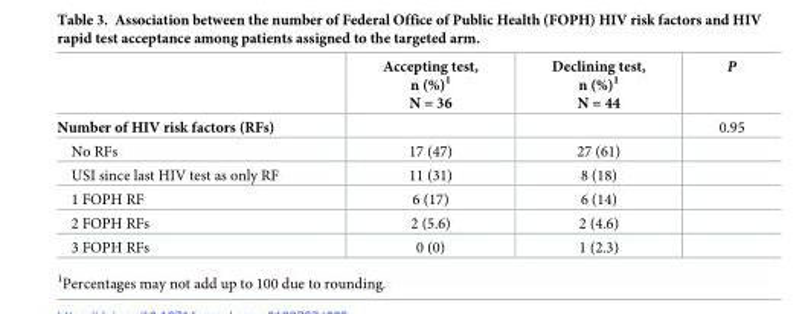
<table><thead><tr><td></td><td>Accepting test, n (%)<sup>1</sup> N = 36</td><td>Declining test, n (%)<sup>1</sup> N = 44</td><td>P</td></tr></thead><tbody><tr><td>Number of HIV risk factors (RFs)</td><td></td><td></td><td>0.95</td></tr><tr><td>No RFs</td><td>17 (47)</td><td>27 (61)</td><td></td></tr><tr><td>USI since last HIV test as only RF</td><td>11 (31)</td><td>8 (18)</td><td></td></tr><tr><td>1 FOPH RF</td><td>6 (17)</td><td>6 (14)</td><td></td></tr><tr><td>2 FOPH RFs</td><td>2 (5.6)</td><td>2 (4.6)</td><td></td></tr><tr><td>3 FOPH RFs</td><td>0 (0)</td><td>1 (2.3)</td><td></td></tr></tbody></table>